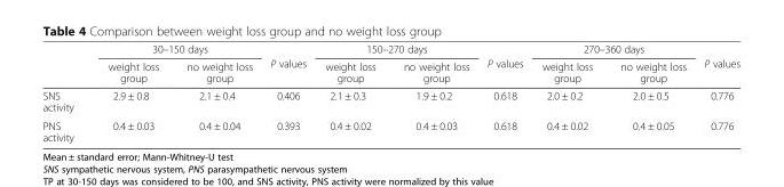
<table><thead><tr><td rowspan="2"></td><td colspan="2">30–150 days</td><td rowspan="2">P values</td><td colspan="2">150–270 days</td><td rowspan="2">P values</td><td colspan="2">270–360 days</td><td rowspan="2">P values</td></tr><tr><td>weight loss group</td><td>no weight loss group</td><td>weight loss group</td><td>no weight loss group</td><td>weight loss group</td><td>no weight loss group</td></tr></thead><tbody><tr><td>SNS activity</td><td>2.9 ± 0.8</td><td>2.1 ± 0.4</td><td>0.406</td><td>2.1 ± 0.3</td><td>1.9 ± 0.2</td><td>0.618</td><td>2.0 ± 0.2</td><td>2.0 ± 0.5</td><td>0.776</td></tr><tr><td>PNS activity</td><td>0.4 ± 0.03</td><td>0.4 ± 0.04</td><td>0.393</td><td>0.4 ± 0.02</td><td>0.4 ± 0.03</td><td>0.618</td><td>0.4 ± 0.02</td><td>0.4 ± 0.05</td><td>0.776</td></tr></tbody></table>